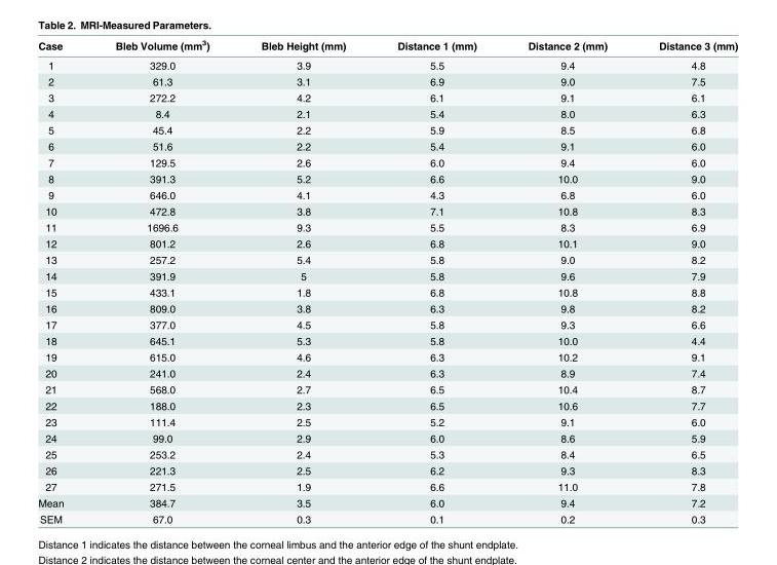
<table><thead><tr><td>Case</td><td>Bleb Volume (mm<sup>3</sup>)</td><td>Bleb Height (mm)</td><td>Distance 1 (mm)</td><td>Distance 2 (mm)</td><td>Distance 3 (mm)</td></tr></thead><tbody><tr><td>1</td><td>329.0</td><td>3.9</td><td>5.5</td><td>9.4</td><td>4.8</td></tr><tr><td>2</td><td>61.3</td><td>3.1</td><td>6.9</td><td>9.0</td><td>7.5</td></tr><tr><td>3</td><td>272.2</td><td>4.2</td><td>6.1</td><td>9.1</td><td>6.1</td></tr><tr><td>4</td><td>8.4</td><td>2.1</td><td>5.4</td><td>8.0</td><td>6.3</td></tr><tr><td>5</td><td>45.4</td><td>2.2</td><td>5.9</td><td>8.5</td><td>6.8</td></tr><tr><td>6</td><td>51.6</td><td>2.2</td><td>5.4</td><td>9.1</td><td>6.0</td></tr><tr><td>7</td><td>129.5</td><td>2.6</td><td>6.0</td><td>9.4</td><td>6.0</td></tr><tr><td>8</td><td>391.3</td><td>5.2</td><td>6.6</td><td>10.0</td><td>9.0</td></tr><tr><td>9</td><td>646.0</td><td>4.1</td><td>4.3</td><td>6.8</td><td>6.0</td></tr><tr><td>10</td><td>472.8</td><td>3.8</td><td>7.1</td><td>10.8</td><td>8.3</td></tr><tr><td>11</td><td>1696.6</td><td>9.3</td><td>5.5</td><td>8.3</td><td>6.9</td></tr><tr><td>12</td><td>801.2</td><td>2.6</td><td>6.8</td><td>10.1</td><td>9.0</td></tr><tr><td>13</td><td>257.2</td><td>5.4</td><td>5.8</td><td>9.0</td><td>8.2</td></tr><tr><td>14</td><td>391.9</td><td>5</td><td>5.8</td><td>9.6</td><td>7.9</td></tr><tr><td>15</td><td>433.1</td><td>1.8</td><td>6.8</td><td>10.8</td><td>8.8</td></tr><tr><td>16</td><td>809.0</td><td>3.8</td><td>6.3</td><td>9.8</td><td>8.2</td></tr><tr><td>17</td><td>377.0</td><td>4.5</td><td>5.8</td><td>9.3</td><td>6.6</td></tr><tr><td>18</td><td>645.1</td><td>5.3</td><td>5.8</td><td>10.0</td><td>4.4</td></tr><tr><td>19</td><td>615.0</td><td>4.6</td><td>6.3</td><td>10.2</td><td>9.1</td></tr><tr><td>20</td><td>241.0</td><td>2.4</td><td>6.3</td><td>8.9</td><td>7.4</td></tr><tr><td>21</td><td>568.0</td><td>2.7</td><td>6.5</td><td>10.4</td><td>8.7</td></tr><tr><td>22</td><td>188.0</td><td>2.3</td><td>6.5</td><td>10.6</td><td>7.7</td></tr><tr><td>23</td><td>111.4</td><td>2.5</td><td>5.2</td><td>9.1</td><td>6.0</td></tr><tr><td>24</td><td>99.0</td><td>2.9</td><td>6.0</td><td>8.6</td><td>5.9</td></tr><tr><td>25</td><td>253.2</td><td>2.4</td><td>5.3</td><td>8.4</td><td>6.5</td></tr><tr><td>26</td><td>221.3</td><td>2.5</td><td>6.2</td><td>9.3</td><td>8.3</td></tr><tr><td>27</td><td>271.5</td><td>1.9</td><td>6.6</td><td>11.0</td><td>7.8</td></tr><tr><td>Mean</td><td>384.7</td><td>3.5</td><td>6.0</td><td>9.4</td><td>7.2</td></tr><tr><td>SEM</td><td>67.0</td><td>0.3</td><td>0.1</td><td>0.2</td><td>0.3</td></tr></tbody></table>